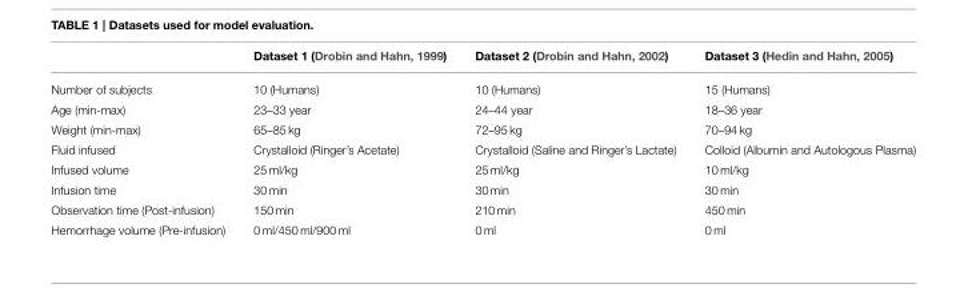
<table><thead><tr><td></td><td>Dataset 1 (Drobin and Hahn, 1999)</td><td>Dataset 2 (Drobin and Hahn, 2002)</td><td>Dataset 3 (Hedin and Hahn, 2005)</td></tr></thead><tbody><tr><td>Number of subjects</td><td>10 (Humans)</td><td>10 (Humans)</td><td>15 (Humans)</td></tr><tr><td>Age (min-max)</td><td>23–33 year</td><td>24–44 year</td><td>18–36 year</td></tr><tr><td>Weight (min-max)</td><td>65–85 kg</td><td>72–95 kg</td><td>70–94 kg</td></tr><tr><td>Fluid infused</td><td>Crystalloid (Ringer’s Acetate)</td><td>Crystalloid (Saline and Ringer’s Lactate)</td><td>Colloid (Albumin and Autologous Plasma)</td></tr><tr><td>Infused volume</td><td>25 ml/kg</td><td>25 ml/kg</td><td>10 ml/kg</td></tr><tr><td>Infusion time</td><td>30 min</td><td>30 min</td><td>30 min</td></tr><tr><td>Observation time (Post-infusion)</td><td>150 min</td><td>210 min</td><td>450 min</td></tr><tr><td>Hemorrhage volume (Pre-infusion)</td><td>0 ml/450 ml/900 ml</td><td>0 ml</td><td>0 ml</td></tr></tbody></table>